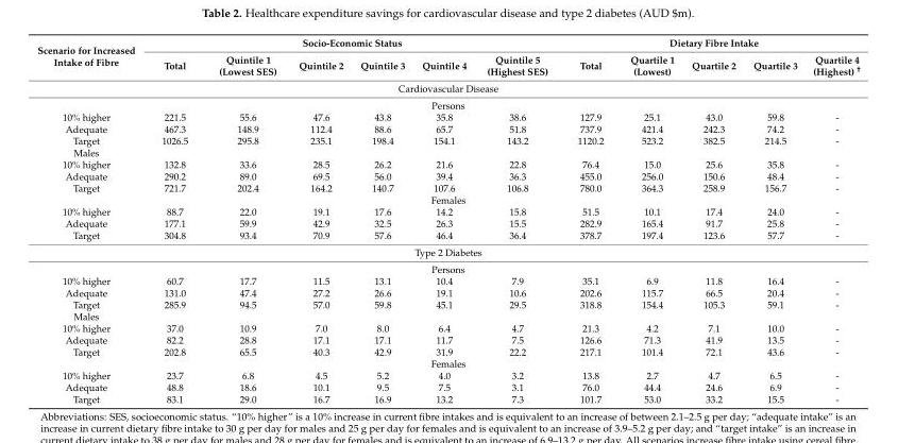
<table><thead><tr><td rowspan="2">Scenario for Increased Intake of Fibre</td><td colspan="6">Socio-Economic Status</td><td colspan="5">Dietary Fibre Intake</td></tr><tr><td>Total</td><td>Quintile 1 (Lowest SES)</td><td>Quintile 2</td><td>Quintile 3</td><td>Quintile 4</td><td>Quintile 5 (Highest SES)</td><td>Total</td><td>Quartile 1 (Lowest)</td><td>Quartile 2</td><td>Quartile 3</td><td>Quartile 4 (Highest) <sup>†</sup></td></tr></thead><tbody><tr><td colspan="12">Cardiovascular Disease</td></tr><tr><td colspan="12">Persons</td></tr><tr><td>10% higher</td><td>221.5</td><td>55.6</td><td>47.6</td><td>43.8</td><td>35.8</td><td>38.6</td><td>127.9</td><td>25.1</td><td>43.0</td><td>59.8</td><td>-</td></tr><tr><td>Adequate</td><td>467.3</td><td>148.9</td><td>112.4</td><td>88.6</td><td>65.7</td><td>51.8</td><td>737.9</td><td>421.4</td><td>242.3</td><td>74.2</td><td>-</td></tr><tr><td>Target</td><td>1026.5</td><td>295.8</td><td>235.1</td><td>198.4</td><td>154.1</td><td>143.2</td><td>1120.2</td><td>523.2</td><td>382.5</td><td>214.5</td><td>-</td></tr><tr><td colspan="12">Males</td></tr><tr><td>10% higher</td><td>132.8</td><td>33.6</td><td>28.5</td><td>26.2</td><td>21.6</td><td>22.8</td><td>76.4</td><td>15.0</td><td>25.6</td><td>35.8</td><td>-</td></tr><tr><td>Adequate</td><td>290.2</td><td>89.0</td><td>69.5</td><td>56.0</td><td>39.4</td><td>36.3</td><td>455.0</td><td>256.0</td><td>150.6</td><td>48.4</td><td>-</td></tr><tr><td>Target</td><td>721.7</td><td>202.4</td><td>164.2</td><td>140.7</td><td>107.6</td><td>106.8</td><td>780.0</td><td>364.3</td><td>258.9</td><td>156.7</td><td>-</td></tr><tr><td colspan="12">Females</td></tr><tr><td>10% higher</td><td>88.7</td><td>22.0</td><td>19.1</td><td>17.6</td><td>14.2</td><td>15.8</td><td>51.5</td><td>10.1</td><td>17.4</td><td>24.0</td><td>-</td></tr><tr><td>Adequate</td><td>177.1</td><td>59.9</td><td>42.9</td><td>32.5</td><td>26.3</td><td>15.5</td><td>282.9</td><td>165.4</td><td>91.7</td><td>25.8</td><td>-</td></tr><tr><td>Target</td><td>304.8</td><td>93.4</td><td>70.9</td><td>57.6</td><td>46.4</td><td>36.4</td><td>378.7</td><td>197.4</td><td>123.6</td><td>57.7</td><td>-</td></tr><tr><td colspan="12">Type 2 Diabetes</td></tr><tr><td colspan="12">Persons</td></tr><tr><td>10% higher</td><td>60.7</td><td>17.7</td><td>11.5</td><td>13.1</td><td>10.4</td><td>7.9</td><td>35.1</td><td>6.9</td><td>11.8</td><td>16.4</td><td>-</td></tr><tr><td>Adequate</td><td>131.0</td><td>47.4</td><td>27.2</td><td>26.6</td><td>19.1</td><td>10.6</td><td>202.6</td><td>115.7</td><td>66.5</td><td>20.4</td><td>-</td></tr><tr><td>Target</td><td>285.9</td><td>94.5</td><td>57.0</td><td>59.8</td><td>45.1</td><td>29.5</td><td>318.8</td><td>154.4</td><td>105.3</td><td>59.1</td><td>-</td></tr><tr><td colspan="12">Males</td></tr><tr><td>10% higher</td><td>37.0</td><td>10.9</td><td>7.0</td><td>8.0</td><td>6.4</td><td>4.7</td><td>21.3</td><td>4.2</td><td>7.1</td><td>10.0</td><td>-</td></tr><tr><td>Adequate</td><td>82.2</td><td>28.8</td><td>17.1</td><td>17.1</td><td>11.7</td><td>7.5</td><td>126.6</td><td>71.3</td><td>41.9</td><td>13.5</td><td>-</td></tr><tr><td>Target</td><td>202.8</td><td>65.5</td><td>40.3</td><td>42.9</td><td>31.9</td><td>22.2</td><td>217.1</td><td>101.4</td><td>72.1</td><td>43.6</td><td>-</td></tr><tr><td colspan="12">Females</td></tr><tr><td>10% higher</td><td>23.7</td><td>6.8</td><td>4.5</td><td>5.2</td><td>4.0</td><td>3.2</td><td>13.8</td><td>2.7</td><td>4.7</td><td>6.5</td><td>-</td></tr><tr><td>Adequate</td><td>48.8</td><td>18.6</td><td>10.1</td><td>9.5</td><td>7.5</td><td>3.1</td><td>76.0</td><td>44.4</td><td>24.6</td><td>6.9</td><td>-</td></tr><tr><td>Target</td><td>83.1</td><td>29.0</td><td>16.7</td><td>16.9</td><td>13.2</td><td>7.3</td><td>101.7</td><td>53.0</td><td>33.2</td><td>15.5</td><td>-</td></tr></tbody></table>